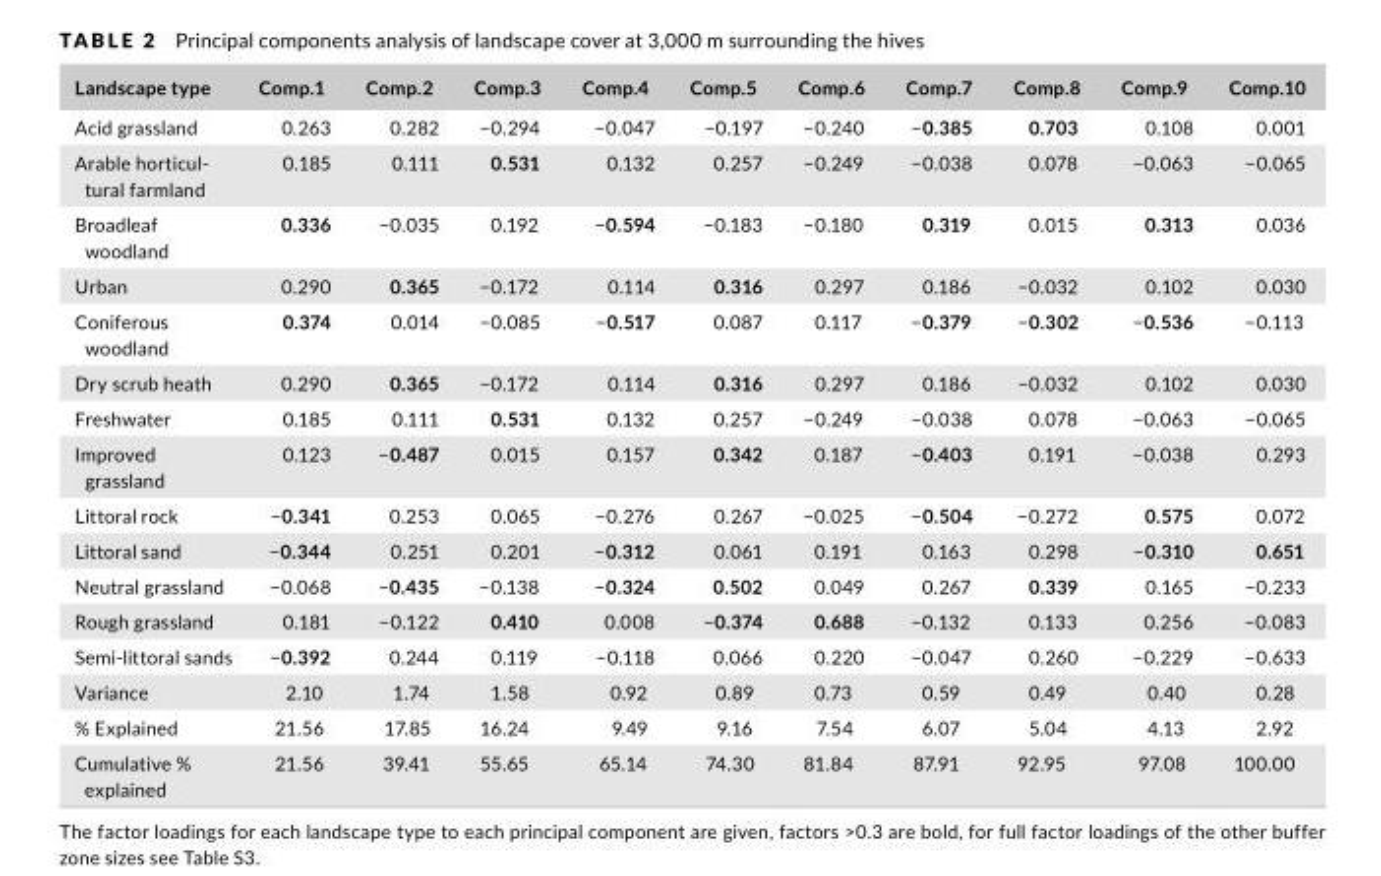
<table><thead><tr><td>Landscape type</td><td>Comp.1</td><td>Comp.2</td><td>Comp.3</td><td>Comp.4</td><td>Comp.5</td><td>Comp.6</td><td>Comp.7</td><td>Comp.8</td><td>Comp.9</td><td>Comp.10</td></tr></thead><tbody><tr><td>Acid grassland</td><td>0.263</td><td>0.282</td><td>−0.294</td><td>−0.047</td><td>−0.197</td><td>−0.240</td><td>−0.385</td><td>0.703</td><td>0.108</td><td>0.001</td></tr><tr><td>Arable horticul- tural farmland</td><td>0.185</td><td>0.111</td><td>0.531</td><td>0.132</td><td>0.257</td><td>−0.249</td><td>−0.038</td><td>0.078</td><td>−0.063</td><td>−0.065</td></tr><tr><td>Broadleaf woodland</td><td>0.336</td><td>−0.035</td><td>0.192</td><td>−0.594</td><td>−0.183</td><td>−0.180</td><td>0.319</td><td>0.015</td><td>0.313</td><td>0.036</td></tr><tr><td>Urban</td><td>0.290</td><td>0.365</td><td>−0.172</td><td>0.114</td><td>0.316</td><td>0.297</td><td>0.186</td><td>−0.032</td><td>0.102</td><td>0.030</td></tr><tr><td>Coniferous woodland</td><td>0.374</td><td>0.014</td><td>−0.085</td><td>−0.517</td><td>0.087</td><td>0.117</td><td>−0.379</td><td>−0.302</td><td>−0.536</td><td>−0.113</td></tr><tr><td>Dry scrub heath</td><td>0.290</td><td>0.365</td><td>−0.172</td><td>0.114</td><td>0.316</td><td>0.297</td><td>0.186</td><td>−0.032</td><td>0.102</td><td>0.030</td></tr><tr><td>Freshwater</td><td>0.185</td><td>0.111</td><td>0.531</td><td>0.132</td><td>0.257</td><td>−0.249</td><td>−0.038</td><td>0.078</td><td>−0.063</td><td>−0.065</td></tr><tr><td>Improved grassland</td><td>0.123</td><td>−0.487</td><td>0.015</td><td>0.157</td><td>0.342</td><td>0.187</td><td>−0.403</td><td>0.191</td><td>−0.038</td><td>0.293</td></tr><tr><td>Littoral rock</td><td>−0.341</td><td>0.253</td><td>0.065</td><td>−0.276</td><td>0.267</td><td>−0.025</td><td>−0.504</td><td>−0.272</td><td>0.575</td><td>0.072</td></tr><tr><td>Littoral sand</td><td>−0.344</td><td>0.251</td><td>0.201</td><td>−0.312</td><td>0.061</td><td>0.191</td><td>0.163</td><td>0.298</td><td>−0.310</td><td>0.651</td></tr><tr><td>Neutral grassland</td><td>−0.068</td><td>−0.435</td><td>−0.138</td><td>−0.324</td><td>0.502</td><td>0.049</td><td>0.267</td><td>0.339</td><td>0.165</td><td>−0.233</td></tr><tr><td>Rough grassland</td><td>0.181</td><td>−0.122</td><td>0.410</td><td>0.008</td><td>−0.374</td><td>0.688</td><td>−0.132</td><td>0.133</td><td>0.256</td><td>−0.083</td></tr><tr><td>Semi-littoral sands</td><td>−0.392</td><td>0.244</td><td>0.119</td><td>−0.118</td><td>0.066</td><td>0.220</td><td>−0.047</td><td>0.260</td><td>−0.229</td><td>−0.633</td></tr><tr><td>Variance</td><td>2.10</td><td>1.74</td><td>1.58</td><td>0.92</td><td>0.89</td><td>0.73</td><td>0.59</td><td>0.49</td><td>0.40</td><td>0.28</td></tr><tr><td>% Explained</td><td>21.56</td><td>17.85</td><td>16.24</td><td>9.49</td><td>9.16</td><td>7.54</td><td>6.07</td><td>5.04</td><td>4.13</td><td>2.92</td></tr><tr><td>Cumulative % explained</td><td>21.56</td><td>39.41</td><td>55.65</td><td>65.14</td><td>74.30</td><td>81.84</td><td>87.91</td><td>92.95</td><td>97.08</td><td>100.00</td></tr></tbody></table>